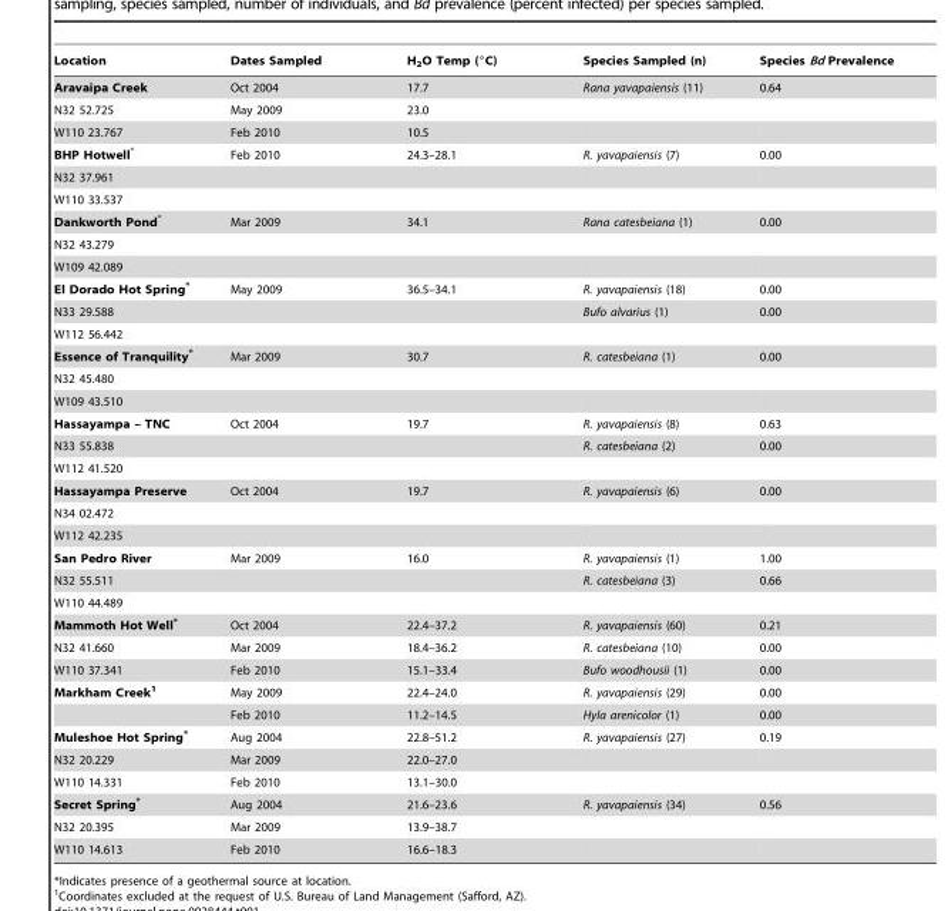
<table><thead><tr><td>Location</td><td>Dates Sampled</td><td>H<sub>2</sub>O Temp (°C)</td><td>Species Sampled (n)</td><td>Species Bd Prevalence</td></tr></thead><tbody><tr><td>Aravaipa Creek</td><td>Oct 2004</td><td>17.7</td><td>Rana yavapaiensis (11)</td><td>0.64</td></tr><tr><td>N32 52.725</td><td>May 2009</td><td>23.0</td><td></td><td></td></tr><tr><td>W110 23.767</td><td>Feb 2010</td><td>10.5</td><td></td><td></td></tr><tr><td>BHP Hotwell*</td><td>Feb 2010</td><td>24.3–28.1</td><td>R. yavapaiensis (7)</td><td>0.00</td></tr><tr><td colspan="5">N32 37.961</td></tr><tr><td colspan="5">W110 33.537</td></tr><tr><td>Dankworth Pond*</td><td>Mar 2009</td><td>34.1</td><td>Rana catesbeiana (1)</td><td>0.00</td></tr><tr><td colspan="5">N32 43.279</td></tr><tr><td colspan="5">W109 42.089</td></tr><tr><td>El Dorado Hot Spring*</td><td>May 2009</td><td>36.5–34.1</td><td>R. yavapaiensis (18)</td><td>0.00</td></tr><tr><td>N33 29.588</td><td></td><td></td><td>Bufo alvarius (1)</td><td>0.00</td></tr><tr><td colspan="5">W112 56.442</td></tr><tr><td>Essence of Tranquility*</td><td>Mar 2009</td><td>30.7</td><td>R. catesbeiana (1)</td><td>0.00</td></tr><tr><td colspan="5">N32 45.480</td></tr><tr><td colspan="5">W109 43.510</td></tr><tr><td>Hassayampa – TNC</td><td>Oct 2004</td><td>19.7</td><td>R. yavapaiensis (8)</td><td>0.63</td></tr><tr><td>N33 55.838</td><td></td><td></td><td>R. catesbeiana (2)</td><td>0.00</td></tr><tr><td colspan="5">W112 41.520</td></tr><tr><td>Hassayampa Preserve</td><td>Oct 2004</td><td>19.7</td><td>R. yavapaiensis (6)</td><td>0.00</td></tr><tr><td colspan="5">N34 02.472</td></tr><tr><td colspan="5">W112 42.235</td></tr><tr><td>San Pedro River</td><td>Mar 2009</td><td>16.0</td><td>R. yavapaiensis (1)</td><td>1.00</td></tr><tr><td>N32 55.511</td><td></td><td></td><td>R. catesbeiana (3)</td><td>0.66</td></tr><tr><td colspan="5">W110 44.489</td></tr><tr><td>Mammoth Hot Well*</td><td>Oct 2004</td><td>22.4–37.2</td><td>R. yavapaiensis (60)</td><td>0.21</td></tr><tr><td>N32 41.660</td><td>Mar 2009</td><td>18.4–36.2</td><td>R. catesbeiana (10)</td><td>0.00</td></tr><tr><td>W110 37.341</td><td>Feb 2010</td><td>15.1–33.4</td><td>Bufo woodhousii (1)</td><td>0.00</td></tr><tr><td rowspan="2">Markham Creek1</td><td>May 2009</td><td>22.4–24.0</td><td>R. yavapaiensis (29)</td><td>0.00</td></tr><tr><td>Feb 2010</td><td>11.2–14.5</td><td>Hyla arenicolor (1)</td><td>0.00</td></tr><tr><td>Muleshoe Hot Spring*</td><td>Aug 2004</td><td>22.8–51.2</td><td>R. yavapaiensis (27)</td><td>0.19</td></tr><tr><td>N32 20.229</td><td>Mar 2009</td><td>22.0–27.0</td><td></td><td></td></tr><tr><td>W110 14.331</td><td>Feb 2010</td><td>13.1–30.0</td><td></td><td></td></tr><tr><td>Secret Spring*</td><td>Aug 2004</td><td>21.6–23.6</td><td>R. yavapaiensis (34)</td><td>0.56</td></tr><tr><td>N32 20.395</td><td>Mar 2009</td><td>13.9–38.7</td><td></td><td></td></tr><tr><td>W110 14.613</td><td>Feb 2010</td><td>16.6–18.3</td><td></td><td></td></tr></tbody></table>